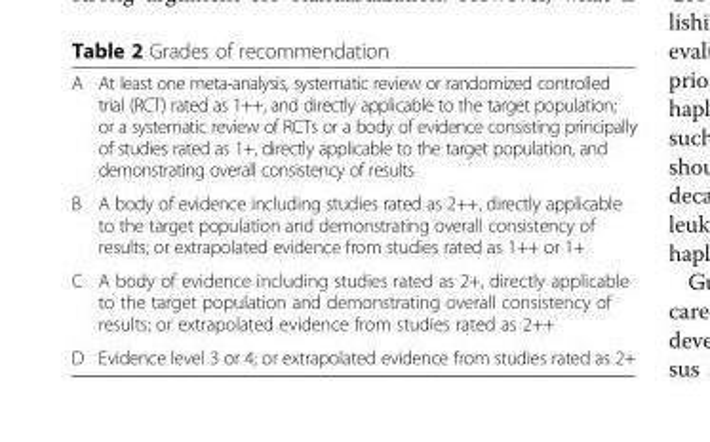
<table><tbody><tr><td>A</td><td>At least one meta-analysis, systematic review or randomized controlled trial (RCT) rated as 1++, and directly applicable to the target population; or a systematic review of RCTs or a body of evidence consisting principally of studies rated as 1+, directly applicable to the target population, and demonstrating overall consistency of results</td></tr><tr><td>B</td><td>A body of evidence including studies rated as 2++, directly applicable to the target population and demonstrating overall consistency of results; or extrapolated evidence from studies rated as 1++ or 1+</td></tr><tr><td>C</td><td>A body of evidence including studies rated as 2+, directly applicable to the target population and demonstrating overall consistency of results; or extrapolated evidence from studies rated as 2++</td></tr><tr><td>D</td><td>Evidence level 3 or 4; or extrapolated evidence from studies rated as 2+</td></tr></tbody></table>